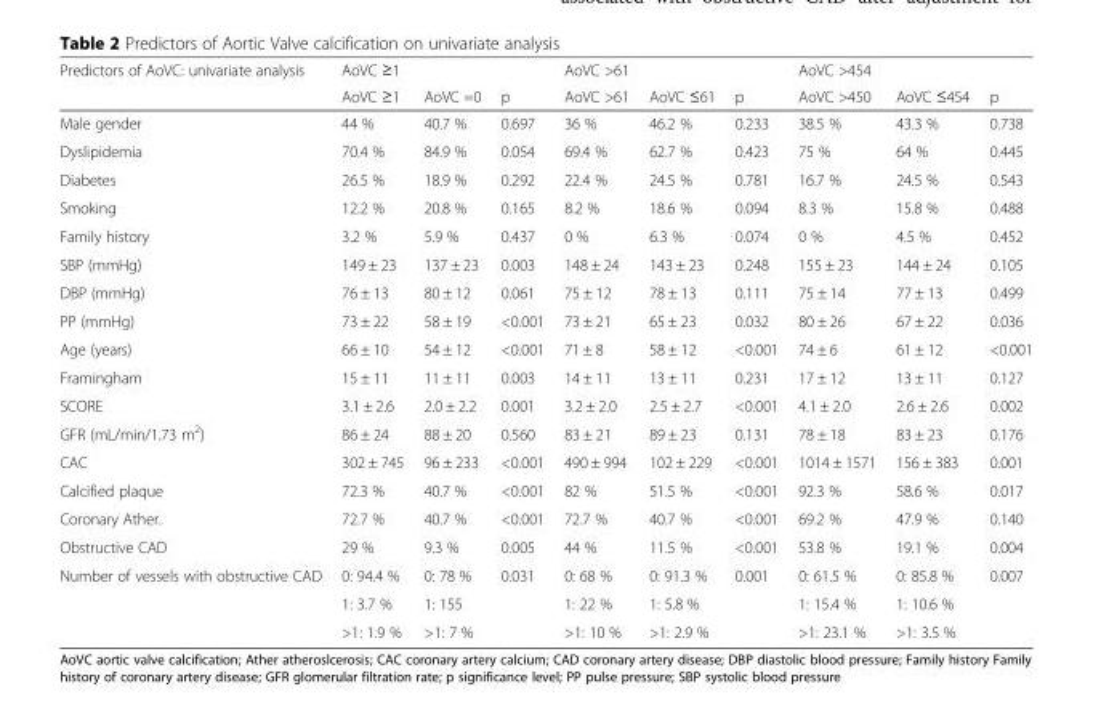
<table><thead><tr><td rowspan="2">Predictors of AoVC: univariate analysis</td><td colspan="3">AoVC ≥1</td><td colspan="3">AoVC &gt;61</td><td colspan="3">AoVC &gt;454</td></tr><tr><td>AoVC ≥1</td><td>AoVC =0</td><td>p</td><td>AoVC &gt;61</td><td>AoVC ≤61</td><td>p</td><td>AoVC &gt;450</td><td>AoVC ≤454</td><td>p</td></tr></thead><tbody><tr><td>Male gender</td><td>44 %</td><td>40.7 %</td><td>0.697</td><td>36 %</td><td>46.2 %</td><td>0.233</td><td>38.5 %</td><td>43.3 %</td><td>0.738</td></tr><tr><td>Dyslipidemia</td><td>70.4 %</td><td>84.9 %</td><td>0.054</td><td>69.4 %</td><td>62.7 %</td><td>0.423</td><td>75 %</td><td>64 %</td><td>0.445</td></tr><tr><td>Diabetes</td><td>26.5 %</td><td>18.9 %</td><td>0.292</td><td>22.4 %</td><td>24.5 %</td><td>0.781</td><td>16.7 %</td><td>24.5 %</td><td>0.543</td></tr><tr><td>Smoking</td><td>12.2 %</td><td>20.8 %</td><td>0.165</td><td>8.2 %</td><td>18.6 %</td><td>0.094</td><td>8.3 %</td><td>15.8 %</td><td>0.488</td></tr><tr><td>Family history</td><td>3.2 %</td><td>5.9 %</td><td>0.437</td><td>0 %</td><td>6.3 %</td><td>0.074</td><td>0 %</td><td>4.5 %</td><td>0.452</td></tr><tr><td>SBP (mmHg)</td><td>149 ± 23</td><td>137 ± 23</td><td>0.003</td><td>148 ± 24</td><td>143 ± 23</td><td>0.248</td><td>155 ± 23</td><td>144 ± 24</td><td>0.105</td></tr><tr><td>DBP (mmHg)</td><td>76 ± 13</td><td>80 ± 12</td><td>0.061</td><td>75 ± 12</td><td>78 ± 13</td><td>0.111</td><td>75 ± 14</td><td>77 ± 13</td><td>0.499</td></tr><tr><td>PP (mmHg)</td><td>73 ± 22</td><td>58 ± 19</td><td>&lt;0.001</td><td>73 ± 21</td><td>65 ± 23</td><td>0.032</td><td>80 ± 26</td><td>67 ± 22</td><td>0.036</td></tr><tr><td>Age (years)</td><td>66 ± 10</td><td>54 ± 12</td><td>&lt;0.001</td><td>71 ± 8</td><td>58 ± 12</td><td>&lt;0.001</td><td>74 ± 6</td><td>61 ± 12</td><td>&lt;0.001</td></tr><tr><td>Framingham</td><td>15 ± 11</td><td>11 ± 11</td><td>0.003</td><td>14 ± 11</td><td>13 ± 11</td><td>0.231</td><td>17 ± 12</td><td>13 ± 11</td><td>0.127</td></tr><tr><td>SCORE</td><td>3.1 ± 2.6</td><td>2.0 ± 2.2</td><td>0.001</td><td>3.2 ± 2.0</td><td>2.5 ± 2.7</td><td>&lt;0.001</td><td>4.1 ± 2.0</td><td>2.6 ± 2.6</td><td>0.002</td></tr><tr><td>GFR (mL/min/1.73 m<sup>2</sup>)</td><td>86 ± 24</td><td>88 ± 20</td><td>0.560</td><td>83 ± 21</td><td>89 ± 23</td><td>0.131</td><td>78 ± 18</td><td>83 ± 23</td><td>0.176</td></tr><tr><td>CAC</td><td>302 ± 745</td><td>96 ± 233</td><td>&lt;0.001</td><td>490 ± 994</td><td>102 ± 229</td><td>&lt;0.001</td><td>1014 ± 1571</td><td>156 ± 383</td><td>0.001</td></tr><tr><td>Calcified plaque</td><td>72.3 %</td><td>40.7 %</td><td>&lt;0.001</td><td>82 %</td><td>51.5 %</td><td>&lt;0.001</td><td>92.3 %</td><td>58.6 %</td><td>0.017</td></tr><tr><td>Coronary Ather.</td><td>72.7 %</td><td>40.7 %</td><td>&lt;0.001</td><td>72.7 %</td><td>40.7 %</td><td>&lt;0.001</td><td>69.2 %</td><td>47.9 %</td><td>0.140</td></tr><tr><td>Obstructive CAD</td><td>29 %</td><td>9.3 %</td><td>0.005</td><td>44 %</td><td>11.5 %</td><td>&lt;0.001</td><td>53.8 %</td><td>19.1 %</td><td>0.004</td></tr><tr><td rowspan="3">Number of vessels with obstructive CAD</td><td>0: 94.4 %</td><td>0: 78 %</td><td>0.031</td><td>0: 68 %</td><td>0: 91.3 %</td><td>0.001</td><td>0: 61.5 %</td><td>0: 85.8 %</td><td rowspan="3">0.007</td></tr><tr><td>1: 3.7 %</td><td>1: 155</td><td></td><td>1: 22 %</td><td>1: 5.8 %</td><td></td><td>1: 15.4 %</td><td>1: 10.6 %</td></tr><tr><td>&gt;1: 1.9 %</td><td>&gt;1: 7 %</td><td></td><td>&gt;1: 10 %</td><td>&gt;1: 2.9 %</td><td></td><td>&gt;1: 23.1 %</td><td>&gt;1: 3.5 %</td></tr></tbody></table>